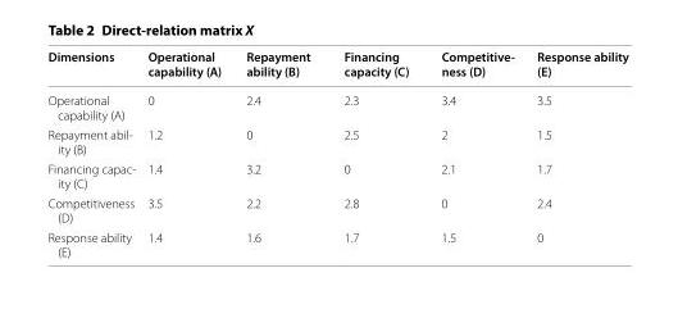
<table><thead><tr><td>Dimensions</td><td>Operational capability (A)</td><td>Repayment ability (B)</td><td>Financing capacity (C)</td><td>Competitive- ness (D)</td><td>Response ability (E)</td></tr></thead><tbody><tr><td>Operational capability (A)</td><td>0</td><td>2.4</td><td>2.3</td><td>3.4</td><td>3.5</td></tr><tr><td>Repayment abil‑ ity (B)</td><td>1.2</td><td>0</td><td>2.5</td><td>2</td><td>1.5</td></tr><tr><td>Financing capac‑ ity (C)</td><td>1.4</td><td>3.2</td><td>0</td><td>2.1</td><td>1.7</td></tr><tr><td>Competitiveness (D)</td><td>3.5</td><td>2.2</td><td>2.8</td><td>0</td><td>2.4</td></tr><tr><td>Response ability (E)</td><td>1.4</td><td>1.6</td><td>1.7</td><td>1.5</td><td>0</td></tr></tbody></table>